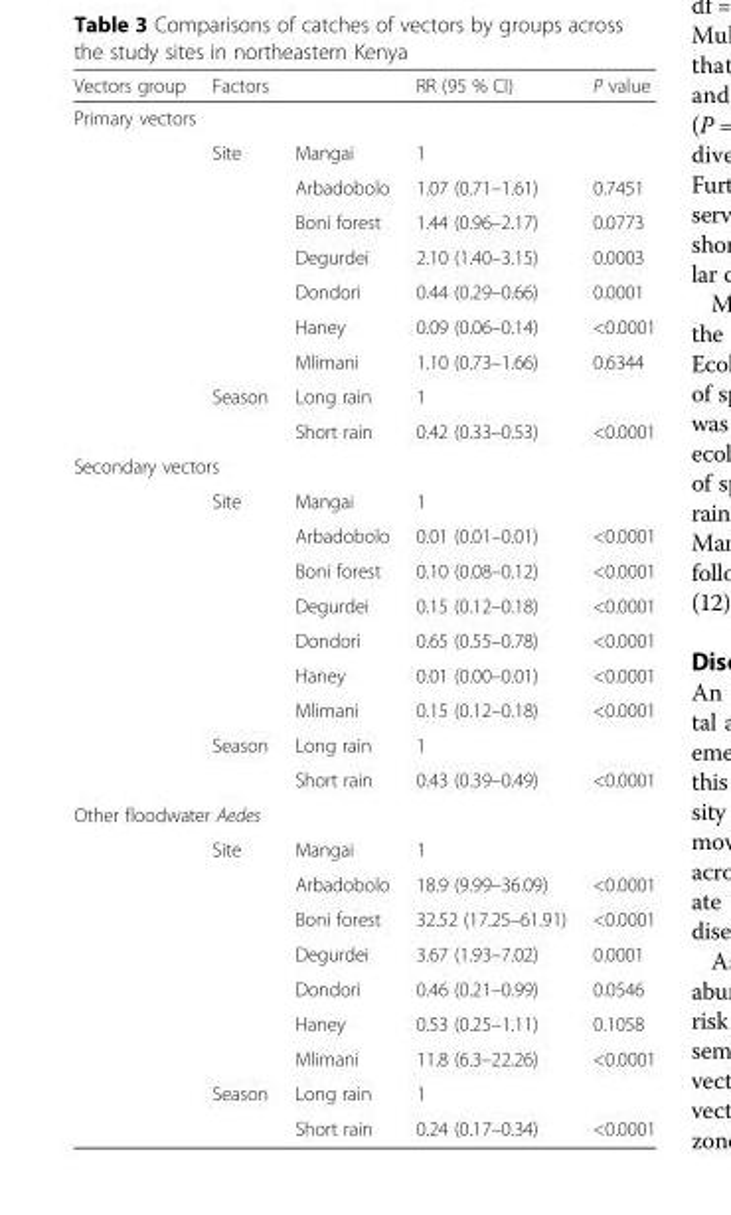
<table><thead><tr><td>Vectors group</td><td>Factors</td><td></td><td>RR (95 % CI)</td><td>P value</td></tr></thead><tbody><tr><td colspan="5">Primary vectors</td></tr><tr><td></td><td rowspan="7">Site</td><td>Mangai</td><td>1</td><td></td></tr><tr><td></td><td>Arbadobolo</td><td>1.07 (0.71–1.61)</td><td>0.7451</td></tr><tr><td></td><td>Boni forest</td><td>1.44 (0.96–2.17)</td><td>0.0773</td></tr><tr><td></td><td>Degurdei</td><td>2.10 (1.40–3.15)</td><td>0.0003</td></tr><tr><td></td><td>Dondori</td><td>0.44 (0.29–0.66)</td><td>0.0001</td></tr><tr><td></td><td>Haney</td><td>0.09 (0.06–0.14)</td><td>&lt;0.0001</td></tr><tr><td></td><td>Mlimani</td><td>1.10 (0.73–1.66)</td><td>0.6344</td></tr><tr><td></td><td>Season</td><td>Long rain</td><td>1</td><td></td></tr><tr><td></td><td></td><td>Short rain</td><td>0.42 (0.33–0.53)</td><td>&lt;0.0001</td></tr><tr><td colspan="5">Secondary vectors</td></tr><tr><td></td><td rowspan="7">Site</td><td>Mangai</td><td>1</td><td></td></tr><tr><td></td><td>Arbadobolo</td><td>0.01 (0.01–0.01)</td><td>&lt;0.0001</td></tr><tr><td></td><td>Boni forest</td><td>0.10 (0.08–0.12)</td><td>&lt;0.0001</td></tr><tr><td></td><td>Degurdei</td><td>0.15 (0.12–0.18)</td><td>&lt;0.0001</td></tr><tr><td></td><td>Dondori</td><td>0.65 (0.55–0.78)</td><td>&lt;0.0001</td></tr><tr><td></td><td>Haney</td><td>0.01 (0.00–0.01)</td><td>&lt;0.0001</td></tr><tr><td></td><td>Mlimani</td><td>0.15 (0.12–0.18)</td><td>&lt;0.0001</td></tr><tr><td></td><td>Season</td><td>Long rain</td><td>1</td><td></td></tr><tr><td></td><td></td><td>Short rain</td><td>0.43 (0.39–0.49)</td><td>&lt;0.0001</td></tr><tr><td colspan="5">Other floodwater Aedes</td></tr><tr><td></td><td rowspan="7">Site</td><td>Mangai</td><td>1</td><td></td></tr><tr><td></td><td>Arbadobolo</td><td>18.9 (9.99–36.09)</td><td>&lt;0.0001</td></tr><tr><td></td><td>Boni forest</td><td>32.52 (17.25–61.91)</td><td>&lt;0.0001</td></tr><tr><td></td><td>Degurdei</td><td>3.67 (1.93–7.02)</td><td>0.0001</td></tr><tr><td></td><td>Dondori</td><td>0.46 (0.21–0.99)</td><td>0.0546</td></tr><tr><td></td><td>Haney</td><td>0.53 (0.25–1.11)</td><td>0.1058</td></tr><tr><td></td><td>Mlimani</td><td>11.8 (6.3–22.26)</td><td>&lt;0.0001</td></tr><tr><td></td><td>Season</td><td>Long rain</td><td>1</td><td></td></tr><tr><td></td><td></td><td>Short rain</td><td>0.24 (0.17–0.34)</td><td>&lt;0.0001</td></tr></tbody></table>